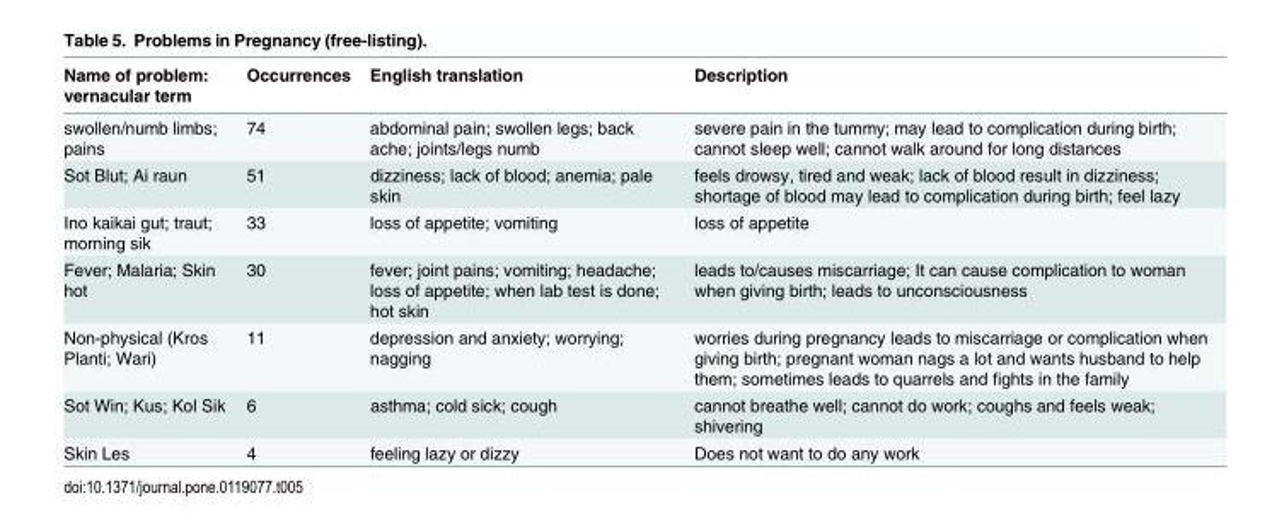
<table><thead><tr><td>Name of problem: vernacular term</td><td>Occurrences</td><td>English translation</td><td>Description</td></tr></thead><tbody><tr><td>swollen/numb limbs; pains</td><td>74</td><td>abdominal pain; swollen legs; back ache; joints/legs numb</td><td>severe pain in the tummy; may lead to complication during birth; cannot sleep well; cannot walk around for long distances</td></tr><tr><td>Sot Blut; Ai raun</td><td>51</td><td>dizziness; lack of blood; anemia; pale skin</td><td>feels drowsy, tired and weak; lack of blood result in dizziness; shortage of blood may lead to complication during birth; feel lazy</td></tr><tr><td>Ino kaikai gut; traut; morning sik</td><td>33</td><td>loss of appetite; vomiting</td><td>loss of appetite</td></tr><tr><td>Fever; Malaria; Skin hot</td><td>30</td><td>fever; joint pains; vomiting; headache; loss of appetite; when lab test is done; hot skin</td><td>leads to/causes miscarriage; It can cause complication to woman when giving birth; leads to unconsciousness</td></tr><tr><td>Non-physical (Kros Planti; Wari)</td><td>11</td><td>depression and anxiety; worrying; nagging</td><td>worries during pregnancy leads to miscarriage or complication when giving birth; pregnant woman nags a lot and wants husband to help them; sometimes leads to quarrels and fights in the family</td></tr><tr><td>Sot Win; Kus; Kol Sik</td><td>6</td><td>asthma; cold sick; cough</td><td>cannot breathe well; cannot do work; coughs and feels weak; shivering</td></tr><tr><td>Skin Les</td><td>4</td><td>feeling lazy or dizzy</td><td>Does not want to do any work</td></tr></tbody></table>